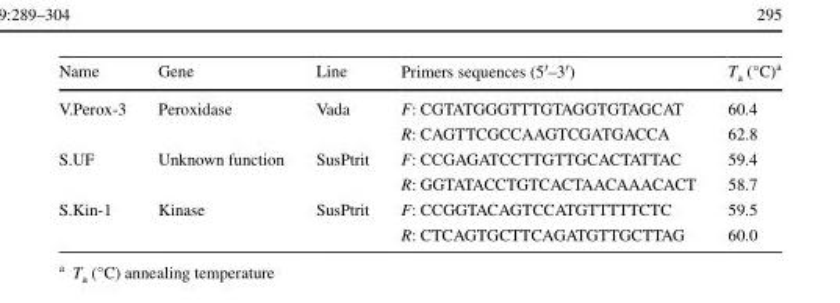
<table><thead><tr><td>Name</td><td>Gene</td><td>Line</td><td>Primers sequences (5′–3′)</td><td>T<sub>a</sub> (°C)<sup>a</sup></td></tr></thead><tbody><tr><td rowspan="2">V.Perox-3</td><td rowspan="2">Peroxidase</td><td rowspan="2">Vada</td><td>F: CGTATGGGTTTGTAGGTGTAGCAT</td><td>60.4</td></tr><tr><td>R: CAGTTCGCCAAGTCGATGACCA</td><td>62.8</td></tr><tr><td rowspan="2">S.UF</td><td rowspan="2">Unknown function</td><td rowspan="2">SusPtrit</td><td>F: CCGAGATCCTTGTTGCACTATTAC</td><td>59.4</td></tr><tr><td>R: GGTATACCTGTCACTAACAAACACT</td><td>58.7</td></tr><tr><td rowspan="2">S.Kin-1</td><td rowspan="2">Kinase</td><td rowspan="2">SusPtrit</td><td>F: CCGGTACAGTCCATGTTTTTCTC</td><td>59.5</td></tr><tr><td>R: CTCAGTGCTTCAGATGTTGCTTAG</td><td>60.0</td></tr></tbody></table>